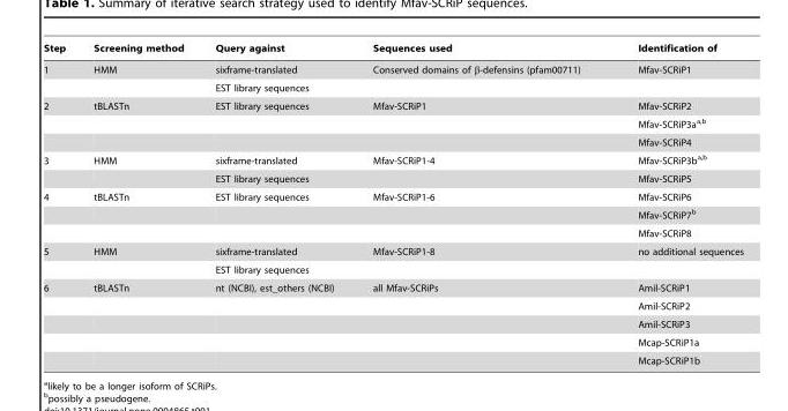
<table><thead><tr><td>Step</td><td>Screening method</td><td>Query against</td><td>Sequences used</td><td>Identification of</td></tr></thead><tbody><tr><td rowspan="2">1</td><td>HMM</td><td>sixframe-translated</td><td>Conserved domains of β-defensins (pfam00711)</td><td>Mfav-SCRiP1</td></tr><tr><td></td><td>EST library sequences</td><td></td><td></td></tr><tr><td rowspan="3">2</td><td>tBLASTn</td><td>EST library sequences</td><td>Mfav-SCRiP1</td><td>Mfav-SCRiP2</td></tr><tr><td></td><td></td><td></td><td>Mfav-SCRiP3a<sup>a,</sup>b</td></tr><tr><td></td><td></td><td></td><td>Mfav-SCRiP4</td></tr><tr><td rowspan="2">3</td><td>HMM</td><td>sixframe-translated</td><td>Mfav-SCRiP1-4</td><td>Mfav-SCRiP3b<sup>a,</sup>b</td></tr><tr><td></td><td>EST library sequences</td><td></td><td>Mfav-SCRiP5</td></tr><tr><td rowspan="3">4</td><td>tBLASTn</td><td>EST library sequences</td><td>Mfav-SCRiP1-6</td><td>Mfav-SCRiP6</td></tr><tr><td></td><td></td><td></td><td>Mfav-SCRiP7<sup>b</sup></td></tr><tr><td></td><td></td><td></td><td>Mfav-SCRiP8</td></tr><tr><td rowspan="2">5</td><td>HMM</td><td>sixframe-translated</td><td>Mfav-SCRiP1-8</td><td>no additional sequences</td></tr><tr><td></td><td>EST library sequences</td><td></td><td></td></tr><tr><td rowspan="5">6</td><td>tBLASTn</td><td>nt (NCBI), est_others (NCBI)</td><td>all Mfav-SCRiPs</td><td>Amil-SCRiP1</td></tr><tr><td></td><td></td><td></td><td>Amil-SCRiP2</td></tr><tr><td></td><td></td><td></td><td>Amil-SCRiP3</td></tr><tr><td></td><td></td><td></td><td>Mcap-SCRiP1a</td></tr><tr><td></td><td></td><td></td><td>Mcap-SCRiP1b</td></tr></tbody></table>